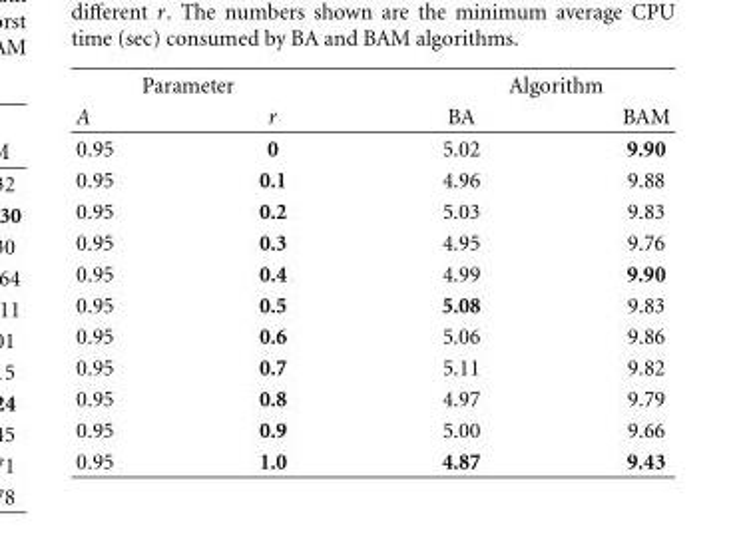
<table><thead><tr><td colspan="2">Parameter</td><td colspan="2">Algorithm</td></tr><tr><td>A</td><td>r</td><td>BA</td><td>BAM</td></tr></thead><tbody><tr><td>0.95</td><td>0</td><td>5.02</td><td>9.90</td></tr><tr><td>0.95</td><td>0.1</td><td>4.96</td><td>9.88</td></tr><tr><td>0.95</td><td>0.2</td><td>5.03</td><td>9.83</td></tr><tr><td>0.95</td><td>0.3</td><td>4.95</td><td>9.76</td></tr><tr><td>0.95</td><td>0.4</td><td>4.99</td><td>9.90</td></tr><tr><td>0.95</td><td>0.5</td><td>5.08</td><td>9.83</td></tr><tr><td>0.95</td><td>0.6</td><td>5.06</td><td>9.86</td></tr><tr><td>0.95</td><td>0.7</td><td>5.11</td><td>9.82</td></tr><tr><td>0.95</td><td>0.8</td><td>4.97</td><td>9.79</td></tr><tr><td>0.95</td><td>0.9</td><td>5.00</td><td>9.66</td></tr><tr><td>0.95</td><td>1.0</td><td>4.87</td><td>9.43</td></tr></tbody></table>